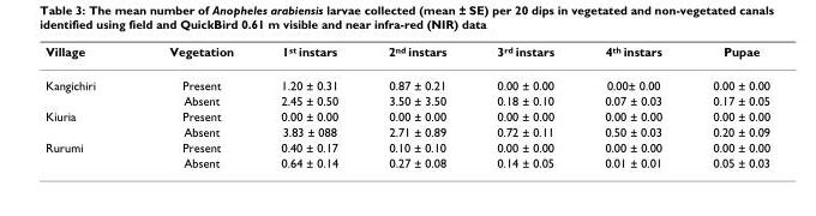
<table><thead><tr><td>Village</td><td>Vegetation</td><td>1<sup>st</sup> instars</td><td>2<sup>nd</sup> instars</td><td>3<sup>rd</sup> instars</td><td>4<sup>th</sup> instars</td><td>Pupae</td></tr></thead><tbody><tr><td rowspan="2">Kangichiri</td><td>Present</td><td>1.20 ± 0.31</td><td>0.87 ± 0.21</td><td>0.00 ± 0.00</td><td>0.00± 0.00</td><td>0.00 ± 0.00</td></tr><tr><td>Absent</td><td>2.45 ± 0.50</td><td>3.50 ± 3.50</td><td>0.18 ± 0.10</td><td>0.07 ± 0.03</td><td>0.17 ± 0.05</td></tr><tr><td rowspan="2">Kiuria</td><td>Present</td><td>0.00 ± 0.00</td><td>0.00 ± 0.00</td><td>0.00 ± 0.00</td><td>0.00 ± 0.00</td><td>0.00 ± 0.00</td></tr><tr><td>Absent</td><td>3.83 ± 088</td><td>2.71 ± 0.89</td><td>0.72 ± 0.11</td><td>0.50 ± 0.03</td><td>0.20 ± 0.09</td></tr><tr><td rowspan="2">Rurumi</td><td>Present</td><td>0.40 ± 0.17</td><td>0.10 ± 0.10</td><td>0.00 ± 0.00</td><td>0.00 ± 0.00</td><td>0.00 ± 0.00</td></tr><tr><td>Absent</td><td>0.64 ± 0.14</td><td>0.27 ± 0.08</td><td>0.14 ± 0.05</td><td>0.01 ± 0.01</td><td>0.05 ± 0.03</td></tr></tbody></table>